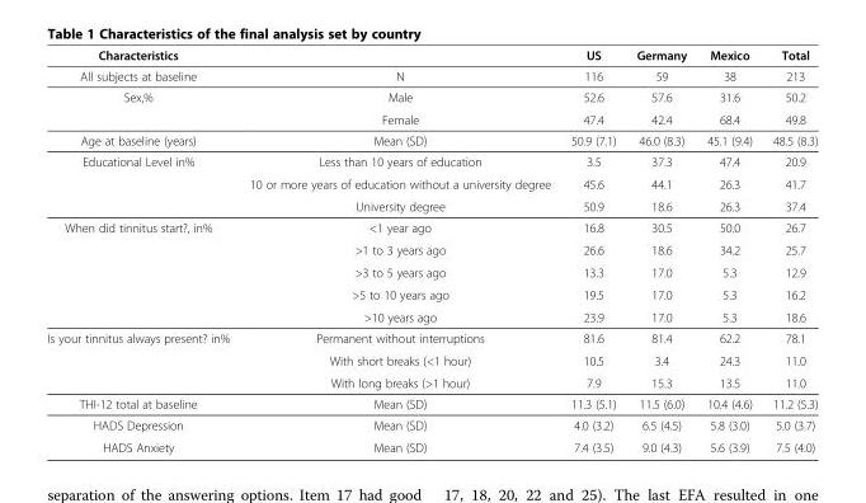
<table><thead><tr><td>Characteristics</td><td></td><td>US</td><td>Germany</td><td>Mexico</td><td>Total</td></tr></thead><tbody><tr><td>All subjects at baseline</td><td>N</td><td>116</td><td>59</td><td>38</td><td>213</td></tr><tr><td rowspan="2">Sex,%</td><td>Male</td><td>52.6</td><td>57.6</td><td>31.6</td><td>50.2</td></tr><tr><td>Female</td><td>47.4</td><td>42.4</td><td>68.4</td><td>49.8</td></tr><tr><td>Age at baseline (years)</td><td>Mean (SD)</td><td>50.9 (7.1)</td><td>46.0 (8.3)</td><td>45.1 (9.4)</td><td>48.5 (8.3)</td></tr><tr><td rowspan="3">Educational Level in%</td><td>Less than 10 years of education</td><td>3.5</td><td>37.3</td><td>47.4</td><td>20.9</td></tr><tr><td>10 or more years of education without a university degree</td><td>45.6</td><td>44.1</td><td>26.3</td><td>41.7</td></tr><tr><td>University degree</td><td>50.9</td><td>18.6</td><td>26.3</td><td>37.4</td></tr><tr><td rowspan="5">When did tinnitus start?, in%</td><td>&lt;1 year ago</td><td>16.8</td><td>30.5</td><td>50.0</td><td>26.7</td></tr><tr><td>&gt;1 to 3 years ago</td><td>26.6</td><td>18.6</td><td>34.2</td><td>25.7</td></tr><tr><td>&gt;3 to 5 years ago</td><td>13.3</td><td>17.0</td><td>5.3</td><td>12.9</td></tr><tr><td>&gt;5 to 10 years ago</td><td>19.5</td><td>17.0</td><td>5.3</td><td>16.2</td></tr><tr><td>&gt;10 years ago</td><td>23.9</td><td>17.0</td><td>5.3</td><td>18.6</td></tr><tr><td rowspan="3">Is your tinnitus always present? in%</td><td>Permanent without interruptions</td><td>81.6</td><td>81.4</td><td>62.2</td><td>78.1</td></tr><tr><td>With short breaks (&lt;1 hour)</td><td>10.5</td><td>3.4</td><td>24.3</td><td>11.0</td></tr><tr><td>With long breaks (&gt;1 hour)</td><td>7.9</td><td>15.3</td><td>13.5</td><td>11.0</td></tr><tr><td>THI-12 total at baseline</td><td>Mean (SD)</td><td>11.3 (5.1)</td><td>11.5 (6.0)</td><td>10.4 (4.6)</td><td>11.2 (5.3)</td></tr><tr><td>HADS Depression</td><td>Mean (SD)</td><td>4.0 (3.2)</td><td>6.5 (4.5)</td><td>5.8 (3.0)</td><td>5.0 (3.7)</td></tr><tr><td>HADS Anxiety</td><td>Mean (SD)</td><td>7.4 (3.5)</td><td>9.0 (4.3)</td><td>5.6 (3.9)</td><td>7.5 (4.0)</td></tr></tbody></table>